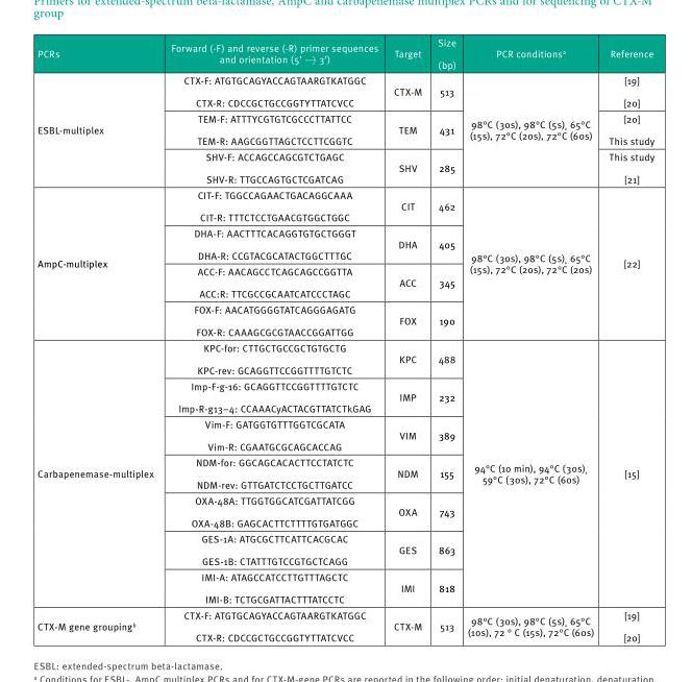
<table><thead><tr><td>PCRs</td><td>Forward (-F) and reverse (-R) primer sequences and orientation (5’ → 3’)</td><td>Target</td><td>Size (bp)</td><td>PCR conditions<sup>a</sup></td><td>Reference</td></tr></thead><tbody><tr><td rowspan="3">ESBL-multiplex</td><td>CTX-F: ATGTGCAGYACCAGTAARGTKATGGC CTX-R: CDCCGCTGCCGGTYTTATCVCC</td><td>CTX-M</td><td>513</td><td rowspan="3">98°C (30s), 98°C (5s)¸ 65°C (15s), 72°C (20s), 72°C (60s)</td><td>[19] [20]</td></tr><tr><td>TEM-F: ATTTYCGTGTCGCCCTTATTCC TEM-R: AAGCGGTTAGCTCCTTCGGTC</td><td>TEM</td><td>431</td><td>[20] This study</td></tr><tr><td>SHV-F: ACCAGCCAGCGTCTGAGC SHV-R: TTGCCAGTGCTCGATCAG</td><td>SHV</td><td>285</td><td>This study [21]</td></tr><tr><td rowspan="4">AmpC-multiplex</td><td>CIT-F: TGGCCAGAACTGACAGGCAAA CIT-R: TTTCTCCTGAACGTGGCTGGC</td><td>CIT</td><td>462</td><td rowspan="4">98°C (30s), 98°C (5s)¸ 65°C (15s), 72°C (20s), 72°C (20s)</td><td rowspan="4">[22]</td></tr><tr><td>DHA-F: AACTTTCACAGGTGTGCTGGGT DHA-R: CCGTACGCATACTGGCTTTGC</td><td>DHA</td><td>405</td></tr><tr><td>ACC-F: AACAGCCTCAGCAGCCGGTTA ACC:R: TTCGCCGCAATCATCCCTAGC</td><td>ACC</td><td>345</td></tr><tr><td>FOX-F: AACATGGGGTATCAGGGAGATG FOX-R: CAAAGCGCGTAACCGGATTGG</td><td>FOX</td><td>190</td></tr><tr><td rowspan="7">Carbapenemase-multiplex</td><td>KPC-for: CTTGCTGCCGCTGTGCTG KPC-rev: GCAGGTTCCGGTTTTGTCTC</td><td>KPC</td><td>488</td><td rowspan="7">94°C (10 min), 94°C (30s)¸ 59°C (30s), 72°C (60s)</td><td rowspan="7">[15]</td></tr><tr><td>Imp-F-g-16: GCAGGTTCCGGTTTTGTCTC Imp-R-g13–4: CCAAACyACTACGTTATCTkGAG</td><td>IMP</td><td>232</td></tr><tr><td>Vim-F: GATGGTGTTTGGTCGCATA Vim-R: CGAATGCGCAGCACCAG</td><td>VIM</td><td>389</td></tr><tr><td>NDM-for: GGCAGCACACTTCCTATCTC NDM-rev: GTTGATCTCCTGCTTGATCC</td><td>NDM</td><td>155</td></tr><tr><td>OXA-48A: TTGGTGGCATCGATTATCGG OXA-48B: GAGCACTTCTTTTGTGATGGC</td><td>OXA</td><td>743</td></tr><tr><td>GES-1A: ATGCGCTTCATTCACGCAC GES-1B: CTATTTGTCCGTGCTCAGG</td><td>GES</td><td>863</td></tr><tr><td>IMI-A: ATAGCCATCCTTGTTTAGCTC IMI-B: TCTGCGATTACTTTATCCTC</td><td>IMI</td><td>818</td></tr><tr><td>CTX-M gene grouping<sup>b</sup></td><td>CTX-F: ATGTGCAGYACCAGTAARGTKATGGC CTX-R: CDCCGCTGCCGGTYTTATCVCC</td><td>CTX-M</td><td>513</td><td>98°C (30s), 98°C (5s)¸ 65°C (10s), 72 ° C (15s), 72°C (60s)</td><td>[19] [20]</td></tr></tbody></table>